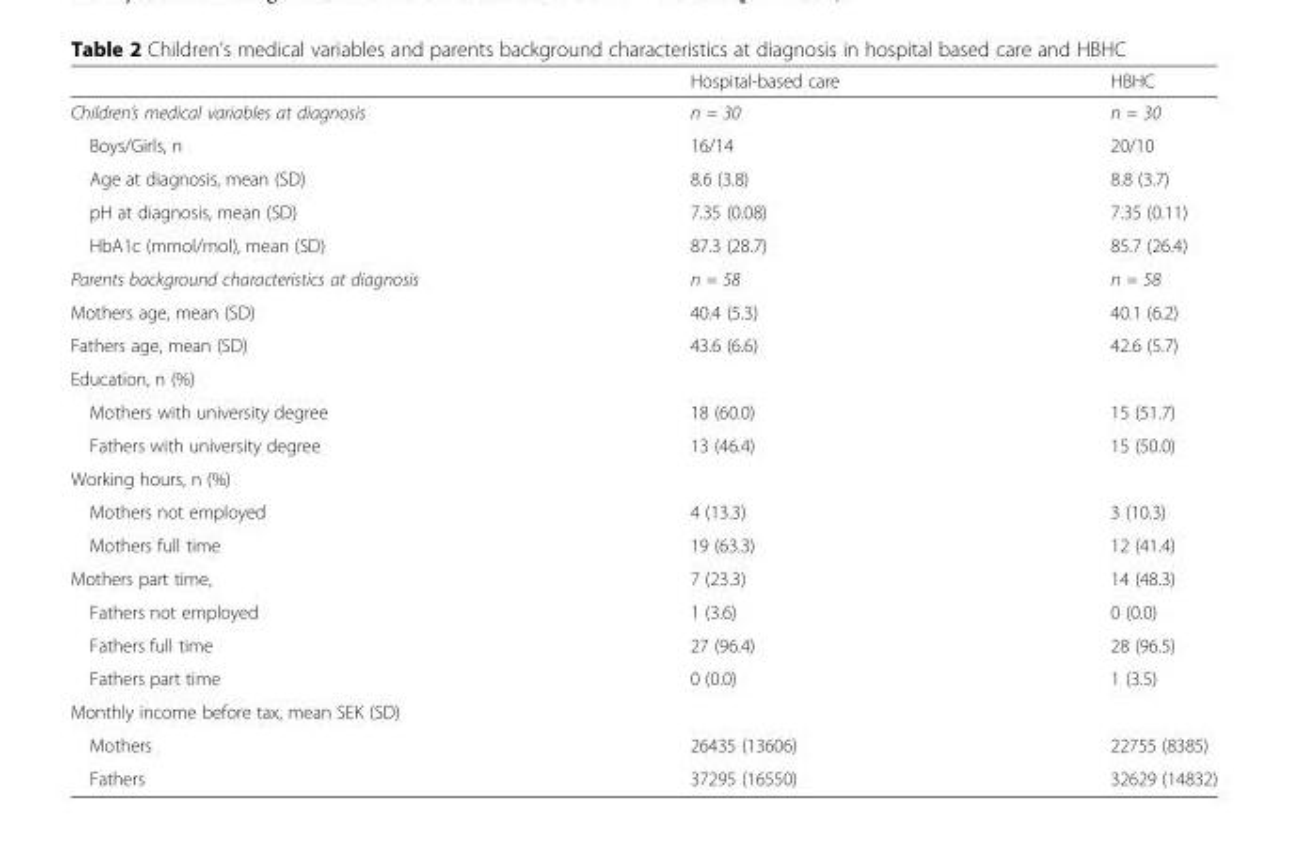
<table><thead><tr><td></td><td>Hospital-based care</td><td>HBHC</td></tr></thead><tbody><tr><td>Children’s medical variables at diagnosis</td><td>n = 30</td><td>n = 30</td></tr><tr><td>Boys/Girls, n</td><td>16/14</td><td>20/10</td></tr><tr><td>Age at diagnosis, mean (SD)</td><td>8.6 (3.8)</td><td>8.8 (3.7)</td></tr><tr><td>pH at diagnosis, mean (SD)</td><td>7.35 (0.08)</td><td>7.35 (0.11)</td></tr><tr><td>HbA1c (mmol/mol), mean (SD)</td><td>87.3 (28.7)</td><td>85.7 (26.4)</td></tr><tr><td>Parents background characteristics at diagnosis</td><td>n = 58</td><td>n = 58</td></tr><tr><td>Mothers age, mean (SD)</td><td>40.4 (5.3)</td><td>40.1 (6.2)</td></tr><tr><td>Fathers age, mean (SD)</td><td>43.6 (6.6)</td><td>42.6 (5.7)</td></tr><tr><td colspan="3">Education, n (%)</td></tr><tr><td>Mothers with university degree</td><td>18 (60.0)</td><td>15 (51.7)</td></tr><tr><td>Fathers with university degree</td><td>13 (46.4)</td><td>15 (50.0)</td></tr><tr><td colspan="3">Working hours, n (%)</td></tr><tr><td>Mothers not employed</td><td>4 (13.3)</td><td>3 (10.3)</td></tr><tr><td>Mothers full time</td><td>19 (63.3)</td><td>12 (41.4)</td></tr><tr><td>Mothers part time,</td><td>7 (23.3)</td><td>14 (48.3)</td></tr><tr><td>Fathers not employed</td><td>1 (3.6)</td><td>0 (0.0)</td></tr><tr><td>Fathers full time</td><td>27 (96.4)</td><td>28 (96.5)</td></tr><tr><td>Fathers part time</td><td>0 (0.0)</td><td>1 (3.5)</td></tr><tr><td colspan="3">Monthly income before tax, mean SEK (SD)</td></tr><tr><td>Mothers</td><td>26435 (13606)</td><td>22755 (8385)</td></tr><tr><td>Fathers</td><td>37295 (16550)</td><td>32629 (14832)</td></tr></tbody></table>